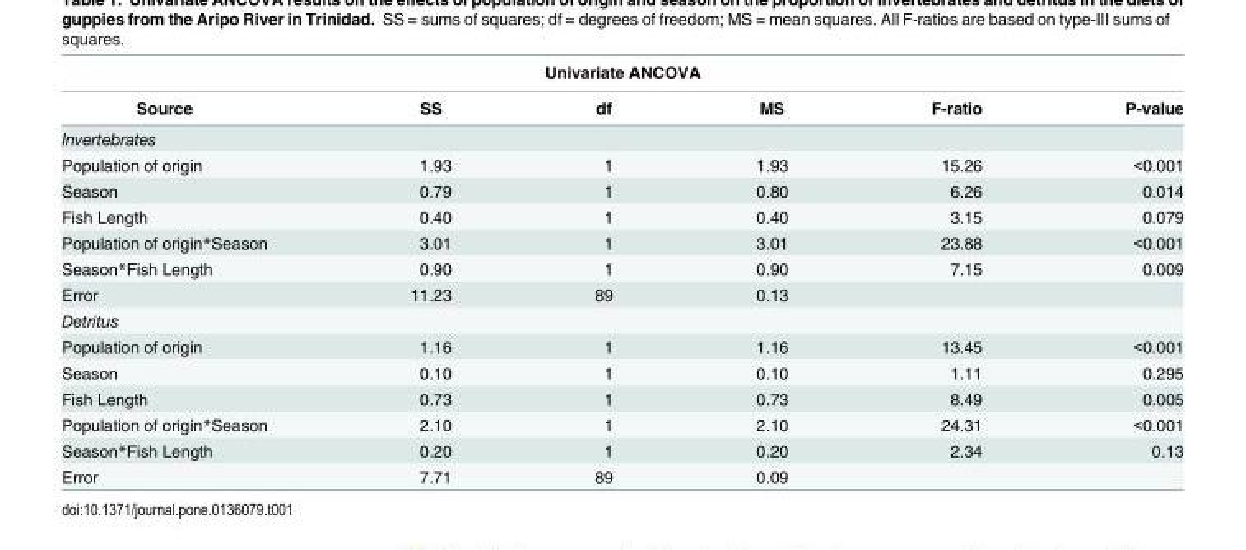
<table><thead><tr><td colspan="6">Univariate ANCOVA</td></tr><tr><td>Source</td><td>SS</td><td>df</td><td>MS</td><td>F-ratio</td><td>P-value</td></tr></thead><tbody><tr><td colspan="6">Invertebrates</td></tr><tr><td>Population of origin</td><td>1.93</td><td>1</td><td>1.93</td><td>15.26</td><td>&lt;0.001</td></tr><tr><td>Season</td><td>0.79</td><td>1</td><td>0.80</td><td>6.26</td><td>0.014</td></tr><tr><td>Fish Length</td><td>0.40</td><td>1</td><td>0.40</td><td>3.15</td><td>0.079</td></tr><tr><td>Population of origin*Season</td><td>3.01</td><td>1</td><td>3.01</td><td>23.88</td><td>&lt;0.001</td></tr><tr><td>Season*Fish Length</td><td>0.90</td><td>1</td><td>0.90</td><td>7.15</td><td>0.009</td></tr><tr><td>Error</td><td>11.23</td><td>89</td><td>0.13</td><td></td><td></td></tr><tr><td colspan="6">Detritus</td></tr><tr><td>Population of origin</td><td>1.16</td><td>1</td><td>1.16</td><td>13.45</td><td>&lt;0.001</td></tr><tr><td>Season</td><td>0.10</td><td>1</td><td>0.10</td><td>1.11</td><td>0.295</td></tr><tr><td>Fish Length</td><td>0.73</td><td>1</td><td>0.73</td><td>8.49</td><td>0.005</td></tr><tr><td>Population of origin*Season</td><td>2.10</td><td>1</td><td>2.10</td><td>24.31</td><td>&lt;0.001</td></tr><tr><td>Season*Fish Length</td><td>0.20</td><td>1</td><td>0.20</td><td>2.34</td><td>0.13</td></tr><tr><td>Error</td><td>7.71</td><td>89</td><td>0.09</td><td></td><td></td></tr></tbody></table>